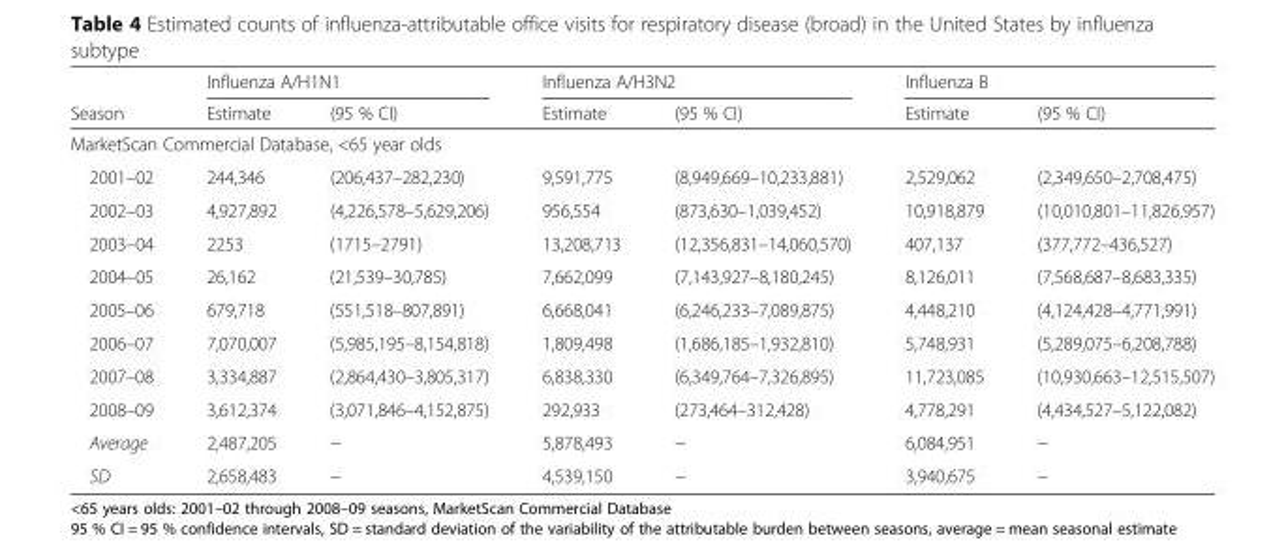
<table><thead><tr><td rowspan="2">Season</td><td colspan="2">Influenza A/H1N1</td><td colspan="2">Influenza A/H3N2</td><td colspan="2">Influenza B</td></tr><tr><td>Estimate</td><td>(95 % CI)</td><td>Estimate</td><td>(95 % CI)</td><td>Estimate</td><td>(95 % CI)</td></tr></thead><tbody><tr><td colspan="7">MarketScan Commercial Database, &lt;65 year olds</td></tr><tr><td>2001–02</td><td>244,346</td><td>(206,437–282,230)</td><td>9,591,775</td><td>(8,949,669–10,233,881)</td><td>2,529,062</td><td>(2,349,650–2,708,475)</td></tr><tr><td>2002–03</td><td>4,927,892</td><td>(4,226,578–5,629,206)</td><td>956,554</td><td>(873,630–1,039,452)</td><td>10,918,879</td><td>(10,010,801–11,826,957)</td></tr><tr><td>2003–04</td><td>2253</td><td>(1715–2791)</td><td>13,208,713</td><td>(12,356,831–14,060,570)</td><td>407,137</td><td>(377,772–436,527)</td></tr><tr><td>2004–05</td><td>26,162</td><td>(21,539–30,785)</td><td>7,662,099</td><td>(7,143,927–8,180,245)</td><td>8,126,011</td><td>(7,568,687–8,683,335)</td></tr><tr><td>2005–06</td><td>679,718</td><td>(551,518–807,891)</td><td>6,668,041</td><td>(6,246,233–7,089,875)</td><td>4,448,210</td><td>(4,124,428–4,771,991)</td></tr><tr><td>2006–07</td><td>7,070,007</td><td>(5,985,195–8,154,818)</td><td>1,809,498</td><td>(1,686,185–1,932,810)</td><td>5,748,931</td><td>(5,289,075–6,208,788)</td></tr><tr><td>2007–08</td><td>3,334,887</td><td>(2,864,430–3,805,317)</td><td>6,838,330</td><td>(6,349,764–7,326,895)</td><td>11,723,085</td><td>(10,930,663–12,515,507)</td></tr><tr><td>2008–09</td><td>3,612,374</td><td>(3,071,846–4,152,875)</td><td>292,933</td><td>(273,464–312,428)</td><td>4,778,291</td><td>(4,434,527–5,122,082)</td></tr><tr><td>Average</td><td>2,487,205</td><td>−</td><td>5,878,493</td><td>−</td><td>6,084,951</td><td>−</td></tr><tr><td>SD</td><td>2,658,483</td><td>−</td><td>4,539,150</td><td>−</td><td>3,940,675</td><td>−</td></tr></tbody></table>